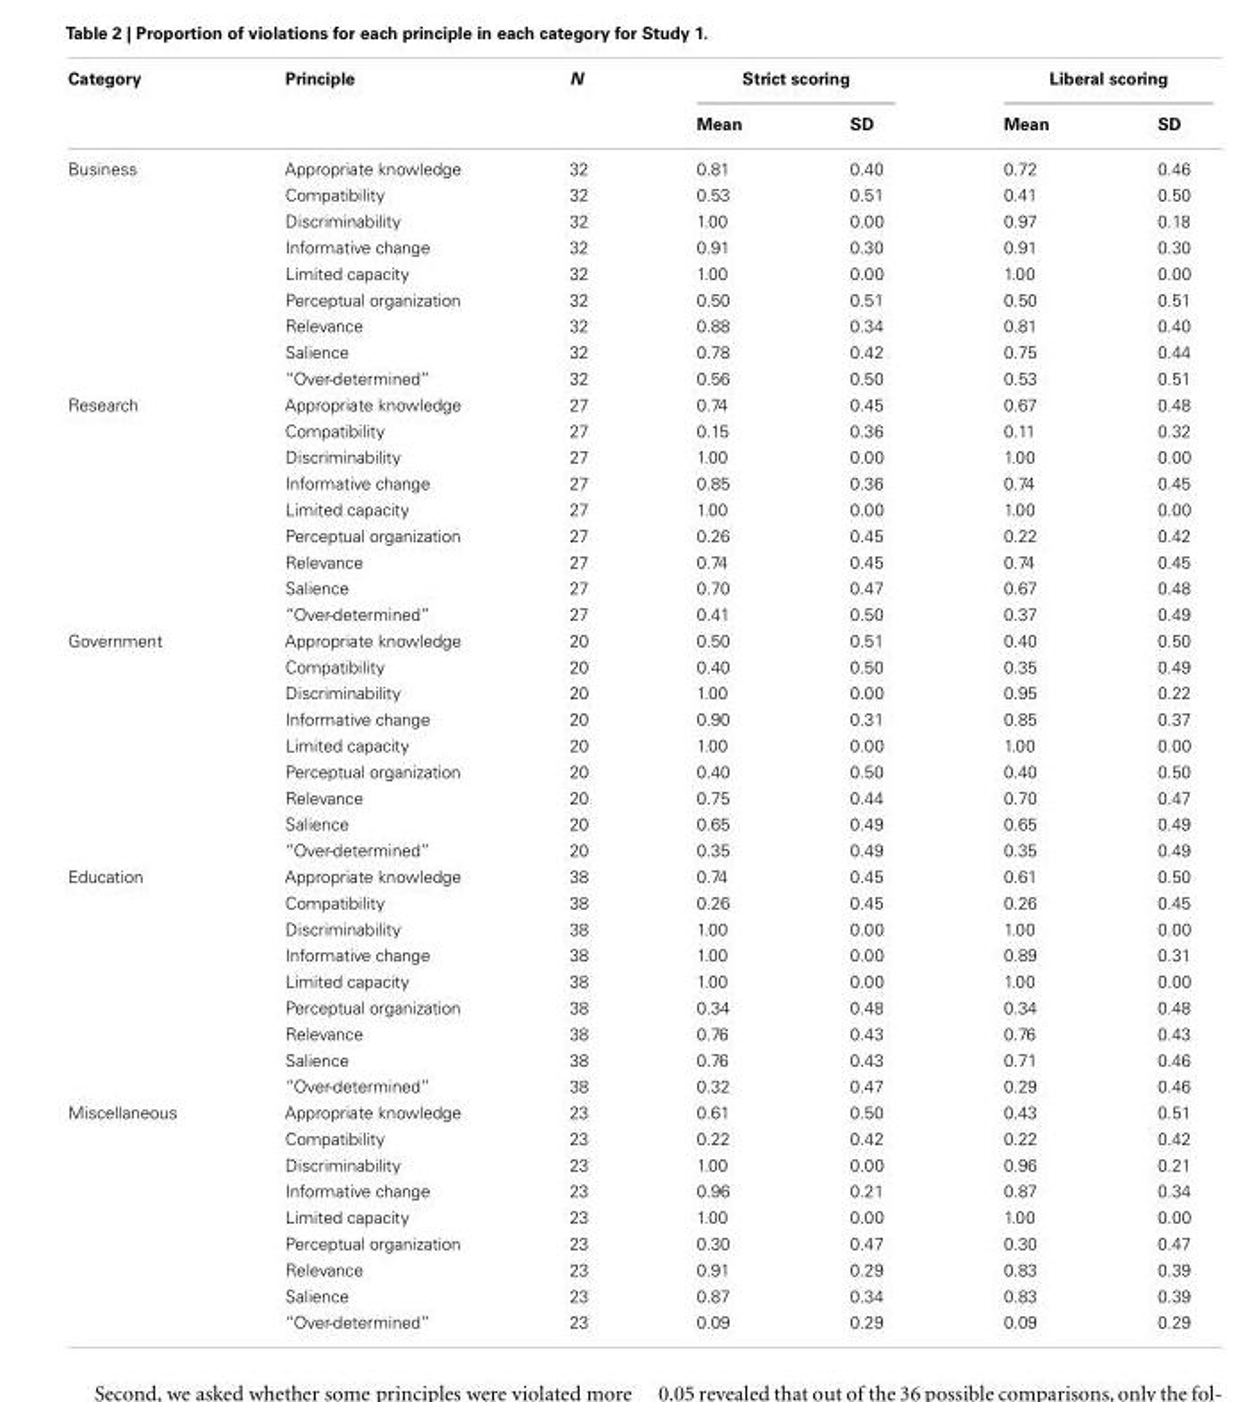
<table><thead><tr><td rowspan="2">Category</td><td rowspan="2">Principle</td><td rowspan="2">N</td><td colspan="2">Strict scoring</td><td colspan="2">Liberal scoring</td></tr><tr><td>Mean</td><td>SD</td><td>Mean</td><td>SD</td></tr></thead><tbody><tr><td rowspan="9">Business</td><td>Appropriate knowledge</td><td>32</td><td>0.81</td><td>0.40</td><td>0.72</td><td>0.46</td></tr><tr><td>Compatibility</td><td>32</td><td>0.53</td><td>0.51</td><td>0.41</td><td>0.50</td></tr><tr><td>Discriminability</td><td>32</td><td>1.00</td><td>0.00</td><td>0.97</td><td>0.18</td></tr><tr><td>Informative change</td><td>32</td><td>0.91</td><td>0.30</td><td>0.91</td><td>0.30</td></tr><tr><td>Limited capacity</td><td>32</td><td>1.00</td><td>0.00</td><td>1.00</td><td>0.00</td></tr><tr><td>Perceptual organization</td><td>32</td><td>0.50</td><td>0.51</td><td>0.50</td><td>0.51</td></tr><tr><td>Relevance</td><td>32</td><td>0.88</td><td>0.34</td><td>0.81</td><td>0.40</td></tr><tr><td>Salience</td><td>32</td><td>0.78</td><td>0.42</td><td>0.75</td><td>0.44</td></tr><tr><td>“Over-determined”</td><td>32</td><td>0.56</td><td>0.50</td><td>0.53</td><td>0.51</td></tr><tr><td rowspan="9">Research</td><td>Appropriate knowledge</td><td>27</td><td>0.74</td><td>0.45</td><td>0.67</td><td>0.48</td></tr><tr><td>Compatibility</td><td>27</td><td>0.15</td><td>0.36</td><td>0.11</td><td>0.32</td></tr><tr><td>Discriminability</td><td>27</td><td>1.00</td><td>0.00</td><td>1.00</td><td>0.00</td></tr><tr><td>Informative change</td><td>27</td><td>0.85</td><td>0.36</td><td>0.74</td><td>0.45</td></tr><tr><td>Limited capacity</td><td>27</td><td>1.00</td><td>0.00</td><td>1.00</td><td>0.00</td></tr><tr><td>Perceptual organization</td><td>27</td><td>0.26</td><td>0.45</td><td>0.22</td><td>0.42</td></tr><tr><td>Relevance</td><td>27</td><td>0.74</td><td>0.45</td><td>0.74</td><td>0.45</td></tr><tr><td>Salience</td><td>27</td><td>0.70</td><td>0.47</td><td>0.67</td><td>0.48</td></tr><tr><td>“Over-determined”</td><td>27</td><td>0.41</td><td>0.50</td><td>0.37</td><td>0.49</td></tr><tr><td rowspan="9">Government</td><td>Appropriate knowledge</td><td>20</td><td>0.50</td><td>0.51</td><td>0.40</td><td>0.50</td></tr><tr><td>Compatibility</td><td>20</td><td>0.40</td><td>0.50</td><td>0.35</td><td>0.49</td></tr><tr><td>Discriminability</td><td>20</td><td>1.00</td><td>0.00</td><td>0.95</td><td>0.22</td></tr><tr><td>Informative change</td><td>20</td><td>0.90</td><td>0.31</td><td>0.85</td><td>0.37</td></tr><tr><td>Limited capacity</td><td>20</td><td>1.00</td><td>0.00</td><td>1.00</td><td>0.00</td></tr><tr><td>Perceptual organization</td><td>20</td><td>0.40</td><td>0.50</td><td>0.40</td><td>0.50</td></tr><tr><td>Relevance</td><td>20</td><td>0.75</td><td>0.44</td><td>0.70</td><td>0.47</td></tr><tr><td>Salience</td><td>20</td><td>0.65</td><td>0.49</td><td>0.65</td><td>0.49</td></tr><tr><td>“Over-determined”</td><td>20</td><td>0.35</td><td>0.49</td><td>0.35</td><td>0.49</td></tr><tr><td rowspan="9">Education</td><td>Appropriate knowledge</td><td>38</td><td>0.74</td><td>0.45</td><td>0.61</td><td>0.50</td></tr><tr><td>Compatibility</td><td>38</td><td>0.26</td><td>0.45</td><td>0.26</td><td>0.45</td></tr><tr><td>Discriminability</td><td>38</td><td>1.00</td><td>0.00</td><td>1.00</td><td>0.00</td></tr><tr><td>Informative change</td><td>38</td><td>1.00</td><td>0.00</td><td>0.89</td><td>0.31</td></tr><tr><td>Limited capacity</td><td>38</td><td>1.00</td><td>0.00</td><td>1.00</td><td>0.00</td></tr><tr><td>Perceptual organization</td><td>38</td><td>0.34</td><td>0.48</td><td>0.34</td><td>0.48</td></tr><tr><td>Relevance</td><td>38</td><td>0.76</td><td>0.43</td><td>0.76</td><td>0.43</td></tr><tr><td>Salience</td><td>38</td><td>0.76</td><td>0.43</td><td>0.71</td><td>0.46</td></tr><tr><td>“Over-determined”</td><td>38</td><td>0.32</td><td>0.47</td><td>0.29</td><td>0.46</td></tr><tr><td rowspan="9">Miscellaneous</td><td>Appropriate knowledge</td><td>23</td><td>0.61</td><td>0.50</td><td>0.43</td><td>0.51</td></tr><tr><td>Compatibility</td><td>23</td><td>0.22</td><td>0.42</td><td>0.22</td><td>0.42</td></tr><tr><td>Discriminability</td><td>23</td><td>1.00</td><td>0.00</td><td>0.96</td><td>0.21</td></tr><tr><td>Informative change</td><td>23</td><td>0.96</td><td>0.21</td><td>0.87</td><td>0.34</td></tr><tr><td>Limited capacity</td><td>23</td><td>1.00</td><td>0.00</td><td>1.00</td><td>0.00</td></tr><tr><td>Perceptual organization</td><td>23</td><td>0.30</td><td>0.47</td><td>0.30</td><td>0.47</td></tr><tr><td>Relevance</td><td>23</td><td>0.91</td><td>0.29</td><td>0.83</td><td>0.39</td></tr><tr><td>Salience</td><td>23</td><td>0.87</td><td>0.34</td><td>0.83</td><td>0.39</td></tr><tr><td>“Over-determined”</td><td>23</td><td>0.09</td><td>0.29</td><td>0.09</td><td>0.29</td></tr></tbody></table>